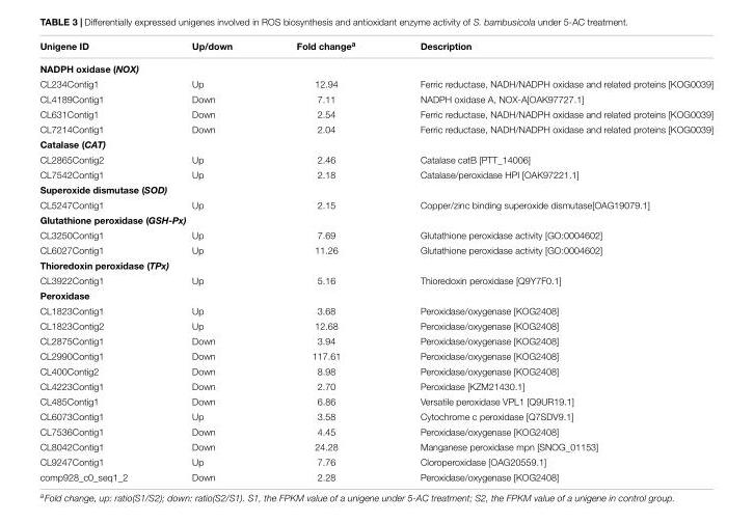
<table><thead><tr><td>Unigene ID</td><td>Up/down</td><td>Fold change<sup>a</sup></td><td>Description</td></tr></thead><tbody><tr><td colspan="4">NADPH oxidase (NOX)</td></tr><tr><td>CL234Contig1</td><td>Up</td><td>12.94</td><td>Ferric reductase, NADH/NADPH oxidase and related proteins [KOG0039]</td></tr><tr><td>CL4189Contig1</td><td>Down</td><td>7.11</td><td>NADPH oxidase A, NOX-A[OAK97727.1]</td></tr><tr><td>CL631Contig1</td><td>Down</td><td>2.54</td><td>Ferric reductase, NADH/NADPH oxidase and related proteins [KOG0039]</td></tr><tr><td>CL7214Contig1</td><td>Down</td><td>2.04</td><td>Ferric reductase, NADH/NADPH oxidase and related proteins [KOG0039]</td></tr><tr><td colspan="4">Catalase (CAT)</td></tr><tr><td>CL2865Contig2</td><td>Up</td><td>2.46</td><td>Catalase catB [PTT_14006]</td></tr><tr><td>CL7542Contig1</td><td>Up</td><td>2.18</td><td>Catalase/peroxidase HPI [OAK97221.1]</td></tr><tr><td colspan="4">Superoxide dismutase (SOD)</td></tr><tr><td>CL5247Contig1</td><td>Up</td><td>2.15</td><td>Copper/zinc binding superoxide dismutase[OAG19079.1]</td></tr><tr><td colspan="4">Glutathione peroxidase (GSH-Px)</td></tr><tr><td>CL3250Contig1</td><td>Up</td><td>7.69</td><td>Glutathione peroxidase activity [GO:0004602]</td></tr><tr><td>CL6027Contig1</td><td>Up</td><td>11.26</td><td>Glutathione peroxidase activity [GO:0004602]</td></tr><tr><td colspan="4">Thioredoxin peroxidase (TPx)</td></tr><tr><td>CL3922Contig1</td><td>Up</td><td>5.16</td><td>Thioredoxin peroxidase [Q9Y7F0.1]</td></tr><tr><td colspan="4">Peroxidase</td></tr><tr><td>CL1823Contig1</td><td>Up</td><td>3.68</td><td>Peroxidase/oxygenase [KOG2408]</td></tr><tr><td>CL1823Contig2</td><td>Up</td><td>12.68</td><td>Peroxidase/oxygenase [KOG2408]</td></tr><tr><td>CL2875Contig1</td><td>Down</td><td>3.94</td><td>Peroxidase/oxygenase [KOG2408]</td></tr><tr><td>CL2990Contig1</td><td>Down</td><td>117.61</td><td>Peroxidase/oxygenase [KOG2408]</td></tr><tr><td>CL400Contig2</td><td>Down</td><td>8.98</td><td>Peroxidase/oxygenase [KOG2408]</td></tr><tr><td>CL4223Contig1</td><td>Down</td><td>2.70</td><td>Peroxidase [KZM21430.1]</td></tr><tr><td>CL485Contig1</td><td>Down</td><td>6.86</td><td>Versatile peroxidase VPL1 [Q9UR19.1]</td></tr><tr><td>CL6073Contig1</td><td>Up</td><td>3.58</td><td>Cytochrome c peroxidase [Q7SDV9.1]</td></tr><tr><td>CL7536Contig1</td><td>Down</td><td>4.45</td><td>Peroxidase/oxygenase [KOG2408]</td></tr><tr><td>CL8042Contig1</td><td>Down</td><td>24.28</td><td>Manganese peroxidase mpn [SNOG_01153]</td></tr><tr><td>CL9247Contig1</td><td>Up</td><td>7.76</td><td>Cloroperoxidase [OAG20559.1]</td></tr><tr><td>comp928_c0_seq1_2</td><td>Down</td><td>2.28</td><td>Peroxidase/oxygenase [KOG2408]</td></tr></tbody></table>